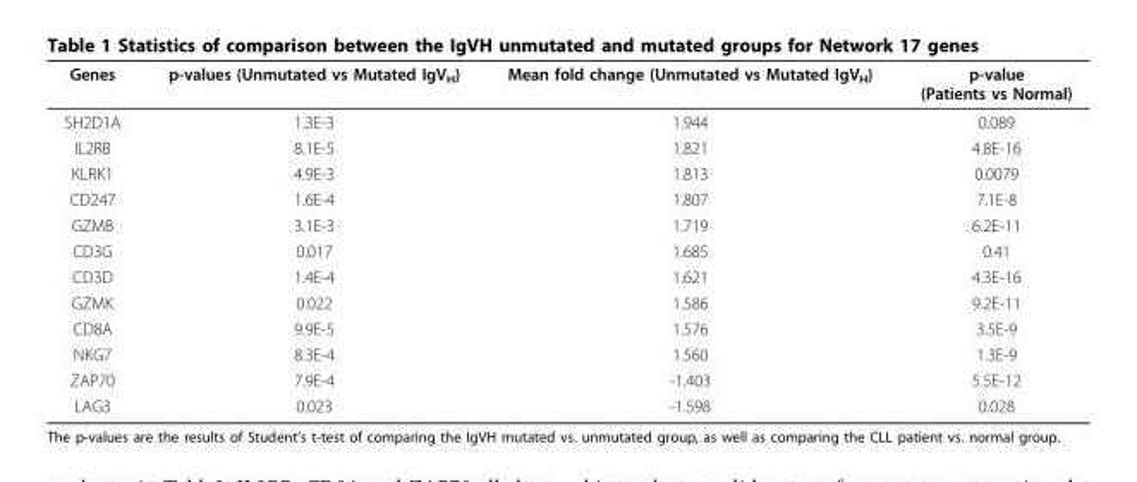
<table><thead><tr><td>Genes</td><td>p-values (Unmutated vs Mutated IgV<sub>H</sub>)</td><td>Mean fold change (Unmutated vs Mutated IgV<sub>H</sub>)</td><td>p-value (Patients vs Normal)</td></tr></thead><tbody><tr><td>SH2D1A</td><td>1.3E-3</td><td>1.944</td><td>0.089</td></tr><tr><td>IL2RB</td><td>8.1E-5</td><td>1.821</td><td>4.8E-16</td></tr><tr><td>KLRK1</td><td>4.9E-3</td><td>1.813</td><td>0.0079</td></tr><tr><td>CD247</td><td>1.6E-4</td><td>1.807</td><td>7.1E-8</td></tr><tr><td>GZMB</td><td>3.1E-3</td><td>1.719</td><td>6.2E-11</td></tr><tr><td>CD3G</td><td>0.017</td><td>1.685</td><td>0.41</td></tr><tr><td>CD3D</td><td>1.4E-4</td><td>1.621</td><td>4.3E-16</td></tr><tr><td>GZMK</td><td>0.022</td><td>1.586</td><td>9.2E-11</td></tr><tr><td>CD8A</td><td>9.9E-5</td><td>1.576</td><td>3.5E-9</td></tr><tr><td>NKG7</td><td>8.3E-4</td><td>1.560</td><td>1.3E-9</td></tr><tr><td>ZAP70</td><td>7.9E-4</td><td>-1.403</td><td>5.5E-12</td></tr><tr><td>LAG3</td><td>0.023</td><td>-1.598</td><td>0.028</td></tr></tbody></table>